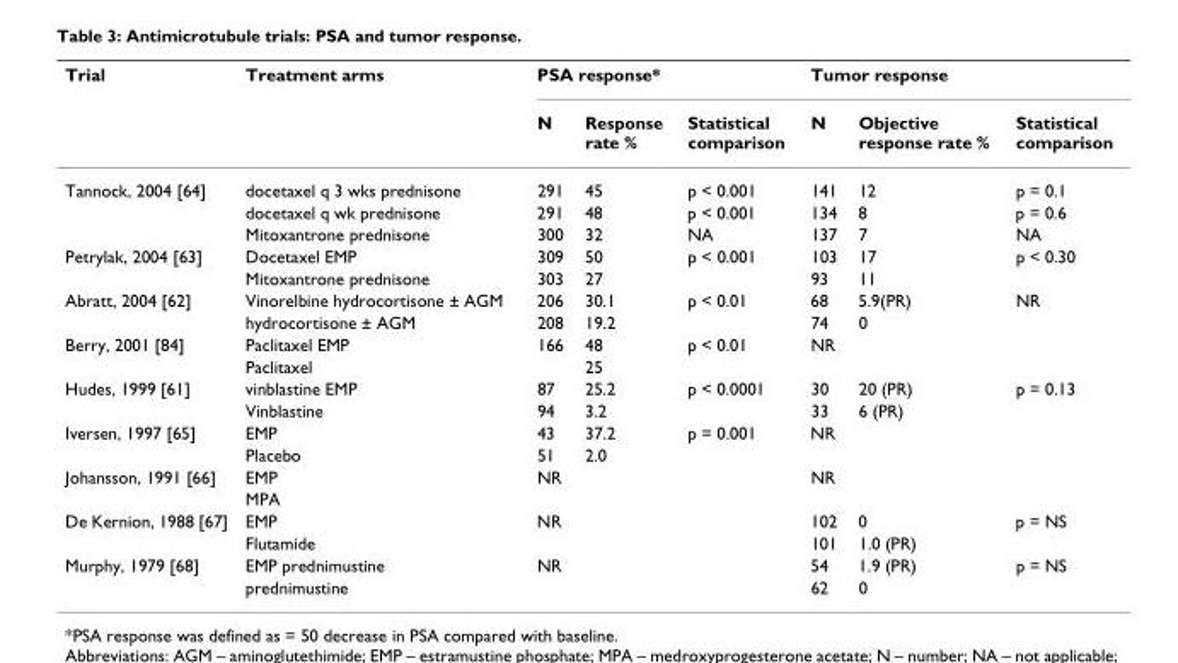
<table><thead><tr><td rowspan="2">Trial</td><td rowspan="2">Treatment arms</td><td colspan="3">PSA response*</td><td colspan="3">Tumor response</td></tr><tr><td>N</td><td>Response rate %</td><td>Statistical comparison</td><td>N</td><td>Objective response rate %</td><td>Statistical comparison</td></tr></thead><tbody><tr><td rowspan="3">Tannock, 2004 [64]</td><td>docetaxel q 3 wks prednisone</td><td>291</td><td>45</td><td>p &lt; 0.001</td><td>141</td><td>12</td><td>p = 0.1</td></tr><tr><td>docetaxel q wk prednisone</td><td>291</td><td>48</td><td>p &lt; 0.001</td><td>134</td><td>8</td><td>p = 0.6</td></tr><tr><td>Mitoxantrone prednisone</td><td>300</td><td>32</td><td>NA</td><td>137</td><td>7</td><td>NA</td></tr><tr><td rowspan="2">Petrylak, 2004 [63]</td><td>Docetaxel EMP</td><td>309</td><td>50</td><td>p &lt; 0.001</td><td>103</td><td>17</td><td>p &lt; 0.30</td></tr><tr><td>Mitoxantrone prednisone</td><td>303</td><td>27</td><td></td><td>93</td><td>11</td><td></td></tr><tr><td rowspan="2">Abratt, 2004 [62]</td><td>Vinorelbine hydrocortisone ± AGM</td><td>206</td><td>30.1</td><td>p &lt; 0.01</td><td>68</td><td>5.9(PR)</td><td>NR</td></tr><tr><td>hydrocortisone ± AGM</td><td>208</td><td>19.2</td><td></td><td>74</td><td>0</td><td></td></tr><tr><td rowspan="2">Berry, 2001 [84]</td><td>Paclitaxel EMP</td><td>166</td><td>48</td><td>p &lt; 0.01</td><td colspan="3">NR</td></tr><tr><td>Paclitaxel</td><td></td><td>25</td><td></td><td></td><td></td><td></td></tr><tr><td rowspan="2">Hudes, 1999 [61]</td><td>vinblastine EMP</td><td>87</td><td>25.2</td><td>p &lt; 0.0001</td><td>30</td><td>20 (PR)</td><td>p = 0.13</td></tr><tr><td>Vinblastine</td><td>94</td><td>3.2</td><td></td><td>33</td><td>6 (PR)</td><td></td></tr><tr><td rowspan="2">Iversen, 1997 [65]</td><td>EMP</td><td>43</td><td>37.2</td><td>p = 0.001</td><td colspan="3">NR</td></tr><tr><td>Placebo</td><td>51</td><td>2.0</td><td></td><td></td><td></td><td></td></tr><tr><td rowspan="2">Johansson, 1991 [66]</td><td>EMP</td><td>NR</td><td></td><td></td><td colspan="3">NR</td></tr><tr><td>MPA</td><td></td><td></td><td></td><td></td><td></td><td></td></tr><tr><td rowspan="2">De Kernion, 1988 [67]</td><td>EMP</td><td>NR</td><td></td><td></td><td>102</td><td>0</td><td>p = NS</td></tr><tr><td>Flutamide</td><td></td><td></td><td></td><td>101</td><td>1.0 (PR)</td><td></td></tr><tr><td rowspan="2">Murphy, 1979 [68]</td><td>EMP prednimustine</td><td>NR</td><td></td><td></td><td>54</td><td>1.9 (PR)</td><td>p = NS</td></tr><tr><td>prednimustine</td><td></td><td></td><td></td><td>62</td><td>0</td><td></td></tr></tbody></table>